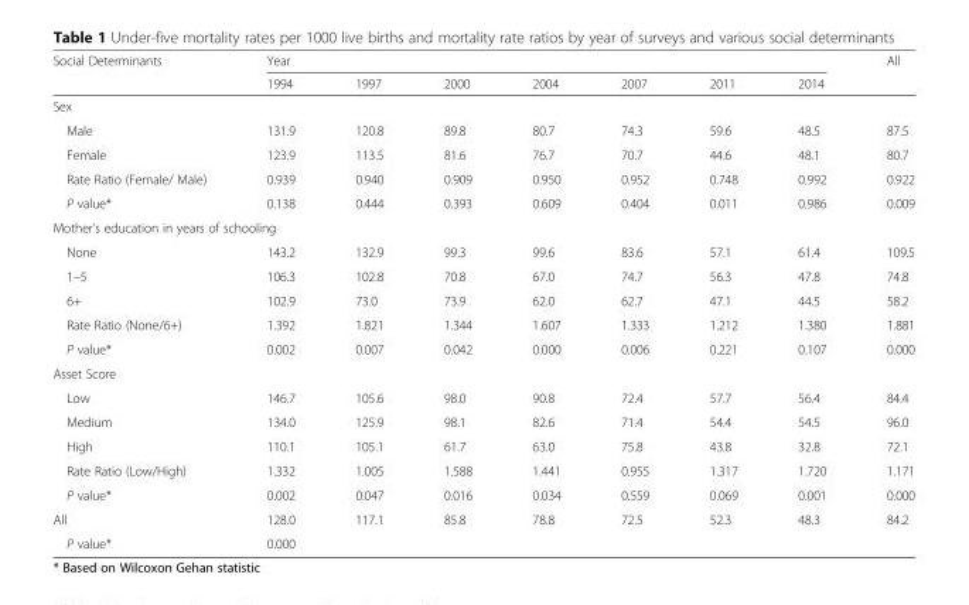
<table><thead><tr><td rowspan="2">Social Determinants</td><td colspan="7">Year</td><td rowspan="2">All</td></tr><tr><td>1994</td><td>1997</td><td>2000</td><td>2004</td><td>2007</td><td>2011</td><td>2014</td></tr></thead><tbody><tr><td colspan="9">Sex</td></tr><tr><td>Male</td><td>131.9</td><td>120.8</td><td>89.8</td><td>80.7</td><td>74.3</td><td>59.6</td><td>48.5</td><td>87.5</td></tr><tr><td>Female</td><td>123.9</td><td>113.5</td><td>81.6</td><td>76.7</td><td>70.7</td><td>44.6</td><td>48.1</td><td>80.7</td></tr><tr><td>Rate Ratio (Female/ Male)</td><td>0.939</td><td>0.940</td><td>0.909</td><td>0.950</td><td>0.952</td><td>0.748</td><td>0.992</td><td>0.922</td></tr><tr><td>P value*</td><td>0.138</td><td>0.444</td><td>0.393</td><td>0.609</td><td>0.404</td><td>0.011</td><td>0.986</td><td>0.009</td></tr><tr><td colspan="9">Mother’s education in years of schooling</td></tr><tr><td>None</td><td>143.2</td><td>132.9</td><td>99.3</td><td>99.6</td><td>83.6</td><td>57.1</td><td>61.4</td><td>109.5</td></tr><tr><td>1–5</td><td>106.3</td><td>102.8</td><td>70.8</td><td>67.0</td><td>74.7</td><td>56.3</td><td>47.8</td><td>74.8</td></tr><tr><td>6+</td><td>102.9</td><td>73.0</td><td>73.9</td><td>62.0</td><td>62.7</td><td>47.1</td><td>44.5</td><td>58.2</td></tr><tr><td>Rate Ratio (None/6+)</td><td>1.392</td><td>1.821</td><td>1.344</td><td>1.607</td><td>1.333</td><td>1.212</td><td>1.380</td><td>1.881</td></tr><tr><td>P value*</td><td>0.002</td><td>0.007</td><td>0.042</td><td>0.000</td><td>0.006</td><td>0.221</td><td>0.107</td><td>0.000</td></tr><tr><td colspan="9">Asset Score</td></tr><tr><td>Low</td><td>146.7</td><td>105.6</td><td>98.0</td><td>90.8</td><td>72.4</td><td>57.7</td><td>56.4</td><td>84.4</td></tr><tr><td>Medium</td><td>134.0</td><td>125.9</td><td>98.1</td><td>82.6</td><td>71.4</td><td>54.4</td><td>54.5</td><td>96.0</td></tr><tr><td>High</td><td>110.1</td><td>105.1</td><td>61.7</td><td>63.0</td><td>75.8</td><td>43.8</td><td>32.8</td><td>72.1</td></tr><tr><td>Rate Ratio (Low/High)</td><td>1.332</td><td>1.005</td><td>1.588</td><td>1.441</td><td>0.955</td><td>1.317</td><td>1.720</td><td>1.171</td></tr><tr><td>P value*</td><td>0.002</td><td>0.047</td><td>0.016</td><td>0.034</td><td>0.559</td><td>0.069</td><td>0.001</td><td>0.000</td></tr><tr><td>All</td><td>128.0</td><td>117.1</td><td>85.8</td><td>78.8</td><td>72.5</td><td>52.3</td><td>48.3</td><td>84.2</td></tr><tr><td>P value*</td><td colspan="7">0.000</td><td></td></tr></tbody></table>